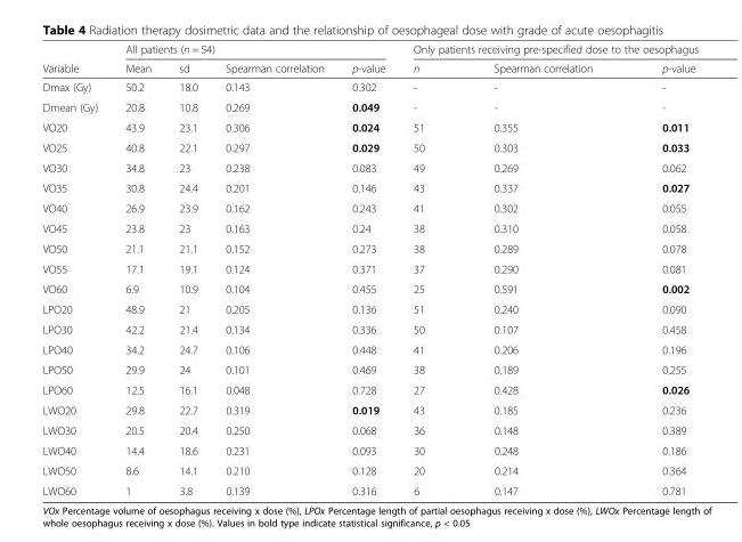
<table><thead><tr><td rowspan="2">Variable</td><td colspan="4">All patients (n = 54)</td><td colspan="3">Only patients receiving pre-specified dose to the oesophagus</td></tr><tr><td>Mean</td><td>sd</td><td>Spearman correlation</td><td>p-value</td><td>n</td><td>Spearman correlation</td><td>p-value</td></tr></thead><tbody><tr><td>Dmax (Gy)</td><td>50.2</td><td>18.0</td><td>0.143</td><td>0.302</td><td>-</td><td>-</td><td>-</td></tr><tr><td>Dmean (Gy)</td><td>20.8</td><td>10.8</td><td>0.269</td><td>0.049</td><td>-</td><td>-</td><td>-</td></tr><tr><td>VO20</td><td>43.9</td><td>23.1</td><td>0.306</td><td>0.024</td><td>51</td><td>0.355</td><td>0.011</td></tr><tr><td>VO25</td><td>40.8</td><td>22.1</td><td>0.297</td><td>0.029</td><td>50</td><td>0.303</td><td>0.033</td></tr><tr><td>VO30</td><td>34.8</td><td>23</td><td>0.238</td><td>0.083</td><td>49</td><td>0.269</td><td>0.062</td></tr><tr><td>VO35</td><td>30.8</td><td>24.4</td><td>0.201</td><td>0.146</td><td>43</td><td>0.337</td><td>0.027</td></tr><tr><td>VO40</td><td>26.9</td><td>23.9</td><td>0.162</td><td>0.243</td><td>41</td><td>0.302</td><td>0.055</td></tr><tr><td>VO45</td><td>23.8</td><td>23</td><td>0.163</td><td>0.24</td><td>38</td><td>0.310</td><td>0.058</td></tr><tr><td>VO50</td><td>21.1</td><td>21.1</td><td>0.152</td><td>0.273</td><td>38</td><td>0.289</td><td>0.078</td></tr><tr><td>VO55</td><td>17.1</td><td>19.1</td><td>0.124</td><td>0.371</td><td>37</td><td>0.290</td><td>0.081</td></tr><tr><td>VO60</td><td>6.9</td><td>10.9</td><td>0.104</td><td>0.455</td><td>25</td><td>0.591</td><td>0.002</td></tr><tr><td>LPO20</td><td>48.9</td><td>21</td><td>0.205</td><td>0.136</td><td>51</td><td>0.240</td><td>0.090</td></tr><tr><td>LPO30</td><td>42.2</td><td>21.4</td><td>0.134</td><td>0.336</td><td>50</td><td>0.107</td><td>0.458</td></tr><tr><td>LPO40</td><td>34.2</td><td>24.7</td><td>0.106</td><td>0.448</td><td>41</td><td>0.206</td><td>0.196</td></tr><tr><td>LPO50</td><td>29.9</td><td>24</td><td>0.101</td><td>0.469</td><td>38</td><td>0.189</td><td>0.255</td></tr><tr><td>LPO60</td><td>12.5</td><td>16.1</td><td>0.048</td><td>0.728</td><td>27</td><td>0.428</td><td>0.026</td></tr><tr><td>LWO20</td><td>29.8</td><td>22.7</td><td>0.319</td><td>0.019</td><td>43</td><td>0.185</td><td>0.236</td></tr><tr><td>LWO30</td><td>20.5</td><td>20.4</td><td>0.250</td><td>0.068</td><td>36</td><td>0.148</td><td>0.389</td></tr><tr><td>LWO40</td><td>14.4</td><td>18.6</td><td>0.231</td><td>0.093</td><td>30</td><td>0.248</td><td>0.186</td></tr><tr><td>LWO50</td><td>8.6</td><td>14.1</td><td>0.210</td><td>0.128</td><td>20</td><td>0.214</td><td>0.364</td></tr><tr><td>LWO60</td><td>1</td><td>3.8</td><td>0.139</td><td>0.316</td><td>6</td><td>0.147</td><td>0.781</td></tr></tbody></table>